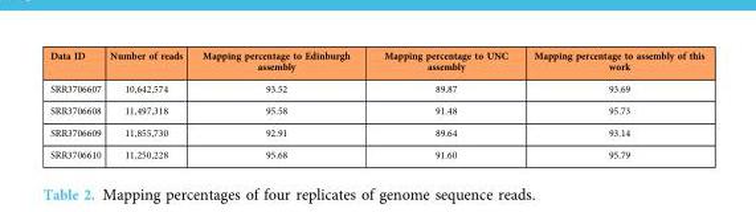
<table><thead><tr><td>Data ID</td><td>Number of reads</td><td>Mapping percentage to Edinburgh assembly</td><td>Mapping percentage to UNC assembly</td><td>Mapping percentage to assembly of this work</td></tr></thead><tbody><tr><td>SRR3706607</td><td>10,642,574</td><td>93.52</td><td>89.87</td><td>93.69</td></tr><tr><td>SRR3706608</td><td>11,497,318</td><td>95.58</td><td>91.48</td><td>95.73</td></tr><tr><td>SRR3706609</td><td>11,855,730</td><td>92.91</td><td>89.64</td><td>93.14</td></tr><tr><td>SRR3706610</td><td>11,250,228</td><td>95.68</td><td>91.60</td><td>95.79</td></tr></tbody></table>